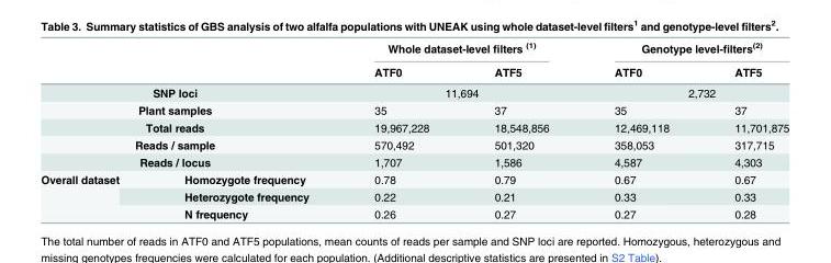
<table><thead><tr><td rowspan="2"></td><td rowspan="2"></td><td colspan="2">Whole dataset-level filters <sup>(1)</sup></td><td colspan="2">Genotype level-filters<sup>(2)</sup></td></tr><tr><td>ATF0</td><td>ATF5</td><td>ATF0</td><td>ATF5</td></tr></thead><tbody><tr><td colspan="2">SNP loci</td><td colspan="2">11,694</td><td colspan="2">2,732</td></tr><tr><td colspan="2">Plant samples</td><td>35</td><td>37</td><td>35</td><td>37</td></tr><tr><td colspan="2">Total reads</td><td>19,967,228</td><td>18,548,856</td><td>12,469,118</td><td>11,701,875</td></tr><tr><td colspan="2">Reads / sample</td><td>570,492</td><td>501,320</td><td>358,053</td><td>317,715</td></tr><tr><td colspan="2">Reads / locus</td><td>1,707</td><td>1,586</td><td>4,587</td><td>4,303</td></tr><tr><td rowspan="3">Overall dataset</td><td>Homozygote frequency</td><td>0.78</td><td>0.79</td><td>0.67</td><td>0.67</td></tr><tr><td>Heterozygote frequency</td><td>0.22</td><td>0.21</td><td>0.33</td><td>0.33</td></tr><tr><td>N frequency</td><td>0.26</td><td>0.27</td><td>0.27</td><td>0.28</td></tr></tbody></table>